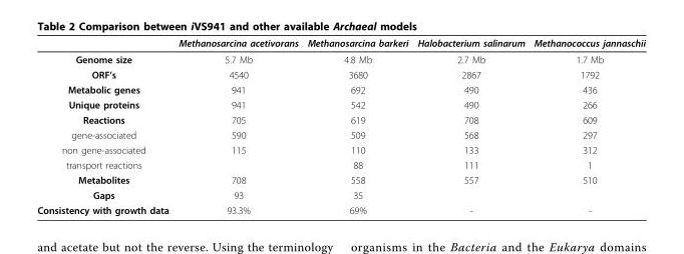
<table><thead><tr><td></td><td>Methanosarcina acetivorans</td><td>Methanosarcina barkeri</td><td>Halobacterium salinarum</td><td>Methanococcus jannaschii</td></tr></thead><tbody><tr><td>Genome size</td><td>5.7 Mb</td><td>4.8 Mb</td><td>2.7 Mb</td><td>1.7 Mb</td></tr><tr><td>ORF’s</td><td>4540</td><td>3680</td><td>2867</td><td>1792</td></tr><tr><td>Metabolic genes</td><td>941</td><td>692</td><td>490</td><td>436</td></tr><tr><td>Unique proteins</td><td>941</td><td>542</td><td>490</td><td>266</td></tr><tr><td>Reactions</td><td>705</td><td>619</td><td>708</td><td>609</td></tr><tr><td>gene-associated</td><td>590</td><td>509</td><td>568</td><td>297</td></tr><tr><td>non gene-associated</td><td>115</td><td>110</td><td>133</td><td>312</td></tr><tr><td>transport reactions</td><td></td><td>88</td><td>111</td><td>1</td></tr><tr><td>Metabolites</td><td>708</td><td>558</td><td>557</td><td>510</td></tr><tr><td>Gaps</td><td>93</td><td>35</td><td></td><td></td></tr><tr><td>Consistency with growth data</td><td>93.3%</td><td>69%</td><td>-</td><td>-</td></tr></tbody></table>